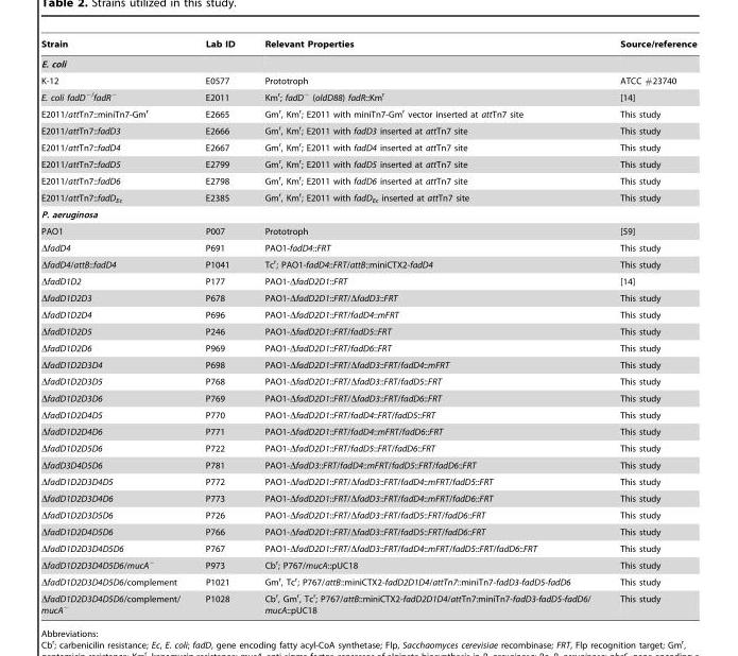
<table><thead><tr><td>Strain</td><td>Lab ID</td><td>Relevant Properties</td><td>Source/reference</td></tr></thead><tbody><tr><td colspan="4">E. coli</td></tr><tr><td>K-12</td><td>E0577</td><td>Prototroph</td><td>ATCC #23740</td></tr><tr><td>E. coli fadD<sup>−/</sup>fadR<sup>−</sup></td><td>E2011</td><td>Km<sup>r</sup>; fadD<sup>−</sup> (oldD88) fadR::Km<sup>r</sup></td><td>[14]</td></tr><tr><td>E2011/attTn7::miniTn7-Gm<sup>r</sup></td><td>E2665</td><td>Gm<sup>r</sup>, Km<sup>r</sup>; E2011 with miniTn7-Gm<sup>r</sup> vector inserted at attTn7 site</td><td>This study</td></tr><tr><td>E2011/attTn7::fadD3</td><td>E2666</td><td>Gm<sup>r</sup>, Km<sup>r</sup>; E2011 with fadD3 inserted at attTn7 site</td><td>This study</td></tr><tr><td>E2011/attTn7::fadD4</td><td>E2667</td><td>Gm<sup>r</sup>, Km<sup>r</sup>; E2011 with fadD4 inserted at attTn7 site</td><td>This study</td></tr><tr><td>E2011/attTn7::fadD5</td><td>E2799</td><td>Gm<sup>r</sup>, Km<sup>r</sup>; E2011 with fadD5 inserted at attTn7 site</td><td>This study</td></tr><tr><td>E2011/attTn7::fadD6</td><td>E2798</td><td>Gm<sup>r</sup>, Km<sup>r</sup>; E2011 with fadD6 inserted at attTn7 site</td><td>This study</td></tr><tr><td>E2011/attTn7::fadD<sub>Ec</sub></td><td>E2385</td><td>Gm<sup>r</sup>, Km<sup>r</sup>; E2011 with fadD<sub>Ec</sub> inserted at attTn7 site</td><td>This study</td></tr><tr><td colspan="4">P. aeruginosa</td></tr><tr><td>PAO1</td><td>P007</td><td>Prototroph</td><td>[59]</td></tr><tr><td>ΔfadD4</td><td>P691</td><td>PAO1-fadD4::FRT</td><td>This study</td></tr><tr><td>ΔfadD4/attB::fadD4</td><td>P1041</td><td>Tc<sup>r</sup>; PAO1-fadD4::FRT/attB::miniCTX2-fadD4</td><td>This study</td></tr><tr><td>ΔfadD1D2</td><td>P177</td><td>PAO1-ΔfadD2D1::FRT</td><td>[14]</td></tr><tr><td>ΔfadD1D2D3</td><td>P678</td><td>PAO1-ΔfadD2D1::FRT/ΔfadD3::FRT</td><td>This study</td></tr><tr><td>ΔfadD1D2D4</td><td>P696</td><td>PAO1-ΔfadD2D1::FRT/fadD4::mFRT</td><td>This study</td></tr><tr><td>ΔfadD1D2D5</td><td>P246</td><td>PAO1-ΔfadD2D1::FRT/fadD5::FRT</td><td>This study</td></tr><tr><td>ΔfadD1D2D6</td><td>P969</td><td>PAO1-ΔfadD2D1::FRT/fadD6::FRT</td><td>This study</td></tr><tr><td>ΔfadD1D2D3D4</td><td>P698</td><td>PAO1-ΔfadD2D1::FRT/ΔfadD3::FRT/fadD4::mFRT</td><td>This study</td></tr><tr><td>ΔfadD1D2D3D5</td><td>P768</td><td>PAO1-ΔfadD2D1::FRT/ΔfadD3::FRT/fadD5::FRT</td><td>This study</td></tr><tr><td>ΔfadD1D2D3D6</td><td>P769</td><td>PAO1-ΔfadD2D1::FRT/ΔfadD3::FRT/fadD6::FRT</td><td>This study</td></tr><tr><td>ΔfadD1D2D4D5</td><td>P770</td><td>PAO1-ΔfadD2D1::FRT/fadD4::FRT/fadD5::FRT</td><td>This study</td></tr><tr><td>ΔfadD1D2D4D6</td><td>P771</td><td>PAO1-ΔfadD2D1::FRT/fadD4::mFRT/fadD6::FRT</td><td>This study</td></tr><tr><td>ΔfadD1D2D5D6</td><td>P722</td><td>PAO1-ΔfadD2D1::FRT/fadD5::FRT/fadD6::FRT</td><td>This study</td></tr><tr><td>ΔfadD3D4D5D6</td><td>P781</td><td>PAO1-ΔfadD3::FRT/fadD4::mFRT/fadD5::FRT/fadD6::FRT</td><td>This study</td></tr><tr><td>ΔfadD1D2D3D4D5</td><td>P772</td><td>PAO1-ΔfadD2D1::FRT/ΔfadD3::FRT/fadD4::mFRT/fadD5::FRT</td><td>This study</td></tr><tr><td>ΔfadD1D2D3D4D6</td><td>P773</td><td>PAO1-ΔfadD2D1::FRT/ΔfadD3::FRT/fadD4::mFRT/fadD6::FRT</td><td>This study</td></tr><tr><td>ΔfadD1D2D3D5D6</td><td>P726</td><td>PAO1-ΔfadD2D1::FRT/ΔfadD3::FRT/fadD5::FRT/fadD6::FRT</td><td>This study</td></tr><tr><td>ΔfadD1D2D4D5D6</td><td>P766</td><td>PAO1-ΔfadD2D1::FRT/ΔfadD3::FRT/fadD5::FRT/fadD6::FRT</td><td>This study</td></tr><tr><td>ΔfadD1D2D3D4D5D6</td><td>P767</td><td>PAO1-ΔfadD2D1::FRT/ΔfadD3::FRT/fadD4::mFRT/fadD5::FRT/fadD6::FRT</td><td>This study</td></tr><tr><td>ΔfadD1D2D3D4D5D6/mucA<sup>−</sup></td><td>P973</td><td>Cb<sup>r</sup>; P767/mucA::pUC18</td><td>This study</td></tr><tr><td>ΔfadD1D2D3D4D5D6/complement</td><td>P1021</td><td>Gm<sup>r</sup>, Tc<sup>r</sup>; P767/attB::miniCTX2-fadD2D1D4/attTn7::miniTn7-fadD3-fadD5-fadD6</td><td>This study</td></tr><tr><td>ΔfadD1D2D3D4D5D6/complement/ mucA<sup>−</sup></td><td>P1028</td><td>Cb<sup>r</sup>, Gm<sup>r</sup>, Tc<sup>r</sup>; P767/attB::miniCTX2-fadD2D1D4/attTn7:miniTn7-fadD3-fadD5-fadD6/ mucA::pUC18</td><td>This study</td></tr></tbody></table>